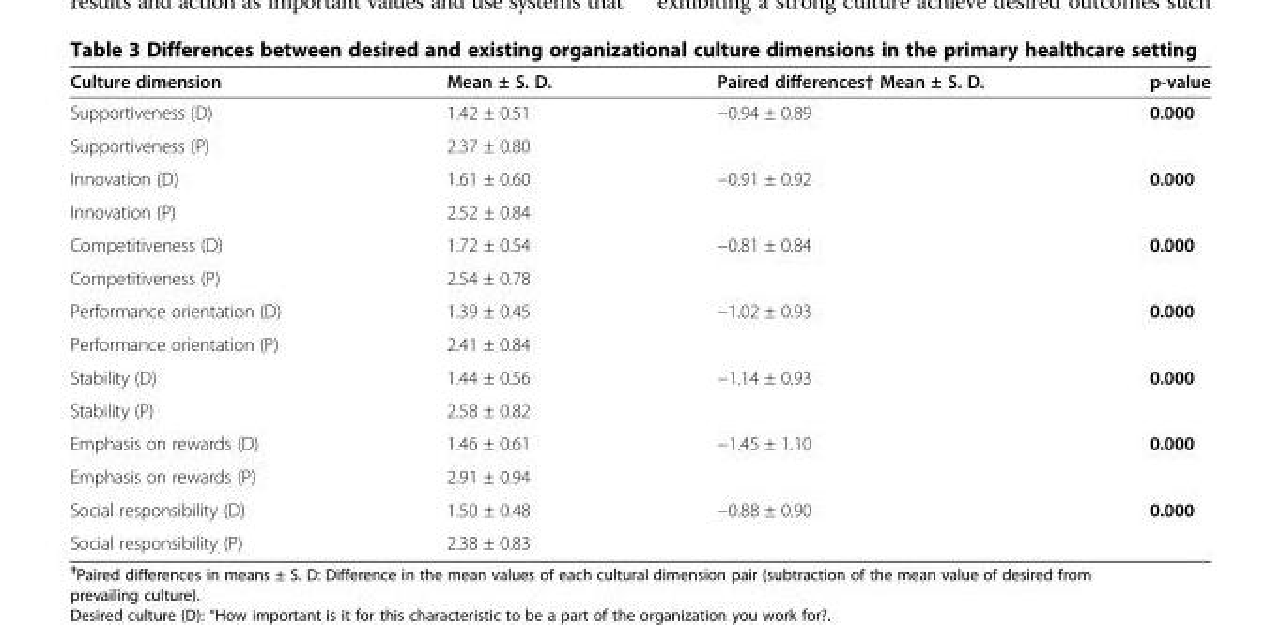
<table><thead><tr><td>Culture dimension</td><td>Mean ± S. D.</td><td>Paired differences† Mean ± S. D.</td><td>p-value</td></tr></thead><tbody><tr><td>Supportiveness (D)</td><td>1.42 ± 0.51</td><td>−0.94 ± 0.89</td><td>0.000</td></tr><tr><td>Supportiveness (P)</td><td>2.37 ± 0.80</td><td></td><td></td></tr><tr><td>Innovation (D)</td><td>1.61 ± 0.60</td><td>−0.91 ± 0.92</td><td>0.000</td></tr><tr><td>Innovation (P)</td><td>2.52 ± 0.84</td><td></td><td></td></tr><tr><td>Competitiveness (D)</td><td>1.72 ± 0.54</td><td>−0.81 ± 0.84</td><td>0.000</td></tr><tr><td>Competitiveness (P)</td><td>2.54 ± 0.78</td><td></td><td></td></tr><tr><td>Performance orientation (D)</td><td>1.39 ± 0.45</td><td>−1.02 ± 0.93</td><td>0.000</td></tr><tr><td>Performance orientation (P)</td><td>2.41 ± 0.84</td><td></td><td></td></tr><tr><td>Stability (D)</td><td>1.44 ± 0.56</td><td>−1.14 ± 0.93</td><td>0.000</td></tr><tr><td>Stability (P)</td><td>2.58 ± 0.82</td><td></td><td></td></tr><tr><td>Emphasis on rewards (D)</td><td>1.46 ± 0.61</td><td>−1.45 ± 1.10</td><td>0.000</td></tr><tr><td>Emphasis on rewards (P)</td><td>2.91 ± 0.94</td><td></td><td></td></tr><tr><td>Social responsibility (D)</td><td>1.50 ± 0.48</td><td>−0.88 ± 0.90</td><td>0.000</td></tr><tr><td>Social responsibility (P)</td><td>2.38 ± 0.83</td><td></td><td></td></tr></tbody></table>